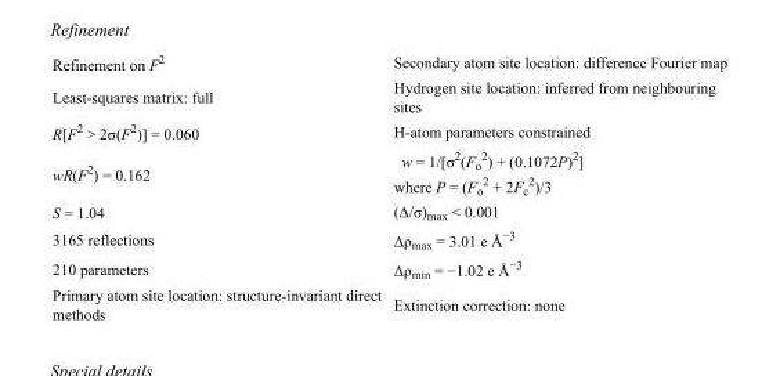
<table><tbody><tr><td>Refinement on F<sup>2</sup></td><td>Secondary atom site location: difference Fourier map</td></tr><tr><td>Least-squares matrix: full</td><td>Hydrogen site location: inferred from neighbouring sites</td></tr><tr><td>R[F<sup>2</sup> &gt; 2σ(F<sup>2</sup>)] = 0.060</td><td>H-atom parameters constrained</td></tr><tr><td>wR(F<sup>2</sup>) = 0.162</td><td>w = 1/[σ<sup>2</sup>(F<sub>o</sub> <sup>2</sup>) + (0.1072P)<sup>2</sup>] where P = (F<sub>o</sub> <sup>2</sup> + 2F<sub>c</sub> <sup>2</sup>)/3</td></tr><tr><td>S = 1.04</td><td>(Δ/σ)<sub>max</sub> &lt; 0.001</td></tr><tr><td>3165 reflections</td><td>Δρ<sub>max</sub> = 3.01 e Å<sup>−3</sup></td></tr><tr><td>210 parameters</td><td>Δρ<sub>min</sub> = −1.02 e Å<sup>−3</sup></td></tr><tr><td>Primary atom site location: structure-invariant direct methods</td><td>Extinction correction: none</td></tr></tbody></table>